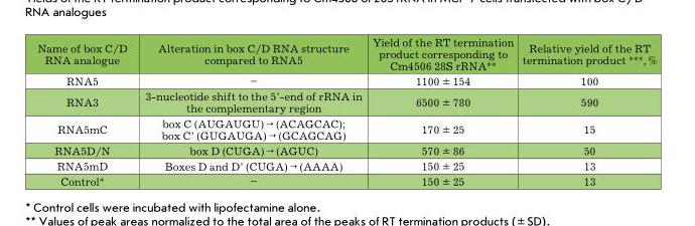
<table><thead><tr><td>Name of box С/D RNA analogue</td><td>Alteration in box С/D RNA structure compared to RNA5</td><td>Yield of the RT termination product corresponding to Cm4506 28S rRNA**</td><td>Relative yield of the RT termination product ***, %</td></tr></thead><tbody><tr><td>RNA5</td><td>–</td><td>1100 ± 154</td><td>100</td></tr><tr><td>RNA3</td><td>3-nucleotide shift to the 5’-end of rRNA in the complementary region</td><td>6500 ± 780</td><td>590</td></tr><tr><td>RNA5mC</td><td>box С (AUGAUGU) → (ACAGCAC); box С’ (GUGAUGA) → (GCAGCAG)</td><td>170 ± 25</td><td>15</td></tr><tr><td>RNA5D/N</td><td>box D (CUGA) → (AGUC)</td><td>570 ± 86</td><td>50</td></tr><tr><td>RNA5mD</td><td>Boxes D and D’ (CUGA) → (AAAA)</td><td>150 ± 25</td><td>13</td></tr><tr><td>Control*</td><td>–</td><td>150 ± 25</td><td>13</td></tr></tbody></table>